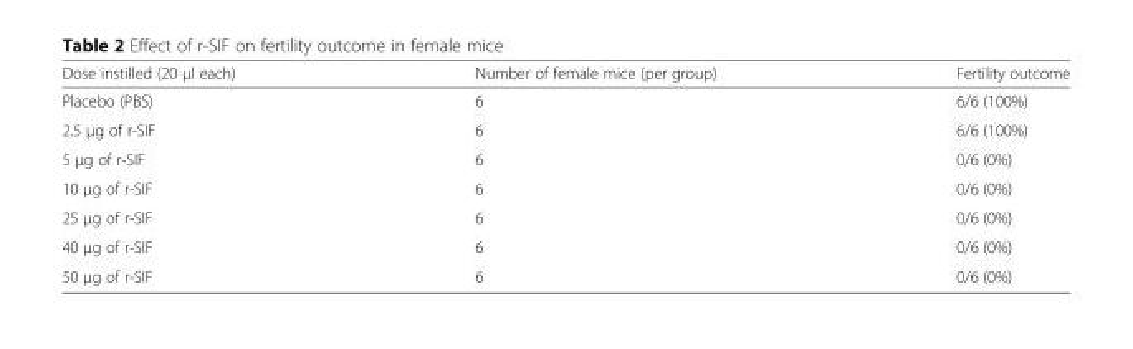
<table><thead><tr><td>Dose instilled (20 μl each)</td><td>Number of female mice (per group)</td><td>Fertility outcome</td></tr></thead><tbody><tr><td>Placebo (PBS)</td><td>6</td><td>6/6 (100%)</td></tr><tr><td>2.5 μg of r-SIF</td><td>6</td><td>6/6 (100%)</td></tr><tr><td>5 μg of r-SIF</td><td>6</td><td>0/6 (0%)</td></tr><tr><td>10 μg of r-SIF</td><td>6</td><td>0/6 (0%)</td></tr><tr><td>25 μg of r-SIF</td><td>6</td><td>0/6 (0%)</td></tr><tr><td>40 μg of r-SIF</td><td>6</td><td>0/6 (0%)</td></tr><tr><td>50 μg of r-SIF</td><td>6</td><td>0/6 (0%)</td></tr></tbody></table>